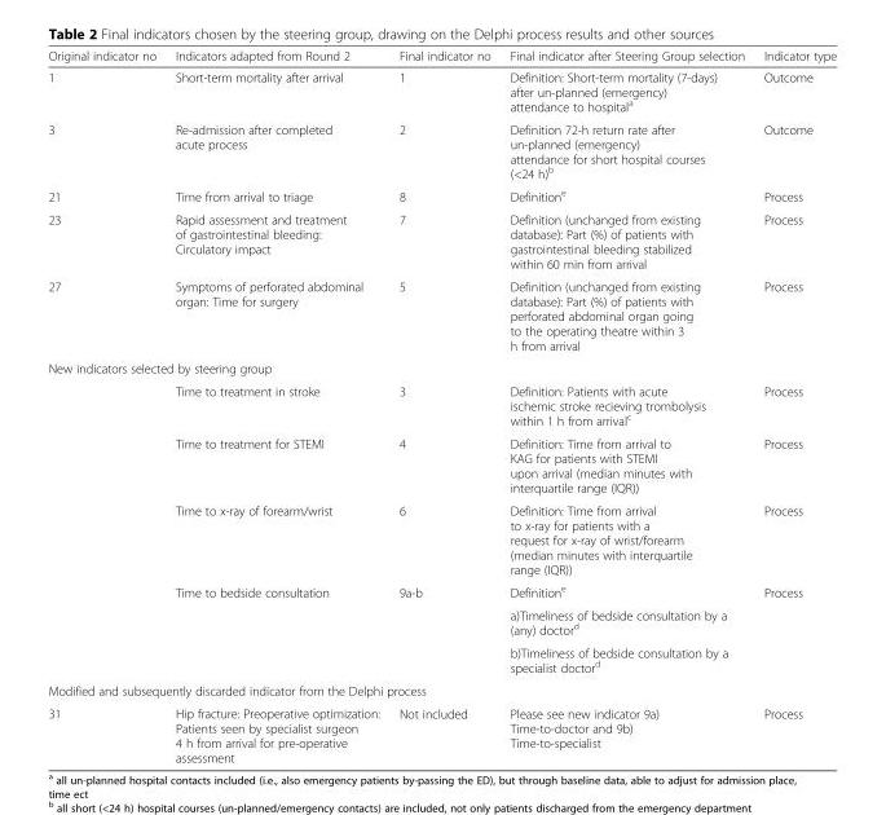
<table><thead><tr><td>Original indicator no</td><td>Indicators adapted from Round 2</td><td>Final indicator no</td><td>Final indicator after Steering Group selection</td><td>Indicator type</td></tr></thead><tbody><tr><td>1</td><td>Short-term mortality after arrival</td><td>1</td><td>Definition: Short-term mortality (7-days) after un-planned (emergency) attendance to hospital<sup>a</sup></td><td>Outcome</td></tr><tr><td>3</td><td>Re-admission after completed acute process</td><td>2</td><td>Definition 72-h return rate after un-planned (emergency) attendance for short hospital courses (&lt;24 h)<sup>b</sup></td><td>Outcome</td></tr><tr><td>21</td><td>Time from arrival to triage</td><td>8</td><td>Definition<sup>e</sup></td><td>Process</td></tr><tr><td>23</td><td>Rapid assessment and treatment of gastrointestinal bleeding: Circulatory impact</td><td>7</td><td>Definition (unchanged from existing database): Part (%) of patients with gastrointestinal bleeding stabilized within 60 min from arrival</td><td>Process</td></tr><tr><td>27</td><td>Symptoms of perforated abdominal organ: Time for surgery</td><td>5</td><td>Definition (unchanged from existing database): Part (%) of patients with perforated abdominal organ going to the operating theatre within 3 h from arrival</td><td>Process</td></tr><tr><td colspan="5">New indicators selected by steering group</td></tr><tr><td></td><td>Time to treatment in stroke</td><td>3</td><td>Definition: Patients with acute ischemic stroke recieving trombolysis within 1 h from arrival<sup>c</sup></td><td>Process</td></tr><tr><td></td><td>Time to treatment for STEMI</td><td>4</td><td>Definition: Time from arrival to KAG for patients with STEMI upon arrival (median minutes with interquartile range (IQR))</td><td>Process</td></tr><tr><td></td><td>Time to x-ray of forearm/wrist</td><td>6</td><td>Definition: Time from arrival to x-ray for patients with a request for x-ray of wrist/forearm (median minutes with interquartile range (IQR))</td><td>Process</td></tr><tr><td rowspan="3"></td><td rowspan="3">Time to bedside consultation</td><td rowspan="3">9a-b</td><td>Definition<sup>e</sup></td><td rowspan="3">Process</td></tr><tr><td>a)Timeliness of bedside consultation by a (any) doctor<sup>d</sup></td></tr><tr><td>b)Timeliness of bedside consultation by a specialist doctor<sup>d</sup></td></tr><tr><td colspan="5">Modified and subsequently discarded indicator from the Delphi process</td></tr><tr><td>31</td><td>Hip fracture: Preoperative optimization: Patients seen by specialist surgeon 4 h from arrival for pre-operative assessment</td><td>Not included</td><td>Please see new indicator 9a) Time-to-doctor and 9b) Time-to-specialist</td><td>Process</td></tr></tbody></table>